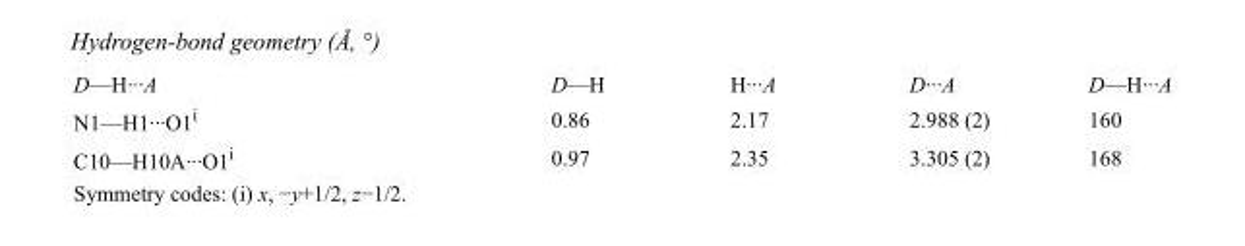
<table><tbody><tr><td>D—H···A</td><td>D—H</td><td>H···A</td><td>D···A</td><td>D—H···A</td></tr><tr><td>N1—H1···O1<sup>i</sup></td><td>0.86</td><td>2.17</td><td>2.988 (2)</td><td>160</td></tr><tr><td>C10—H10A···O1<sup>i</sup></td><td>0.97</td><td>2.35</td><td>3.305 (2)</td><td>168</td></tr></tbody></table>